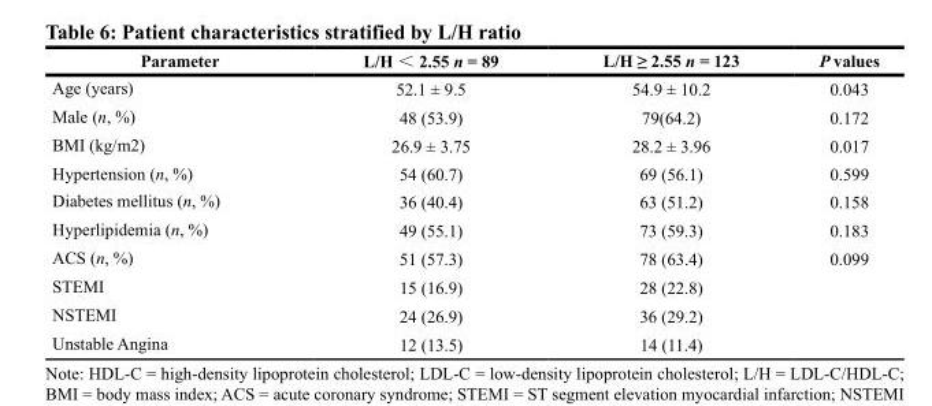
<table><thead><tr><td>Parameter</td><td>L/H ＜ 2.55 n = 89</td><td>L/H ≥ 2.55 n = 123</td><td>P values</td></tr></thead><tbody><tr><td>Age (years)</td><td>52.1 ± 9.5</td><td>54.9 ± 10.2</td><td>0.043</td></tr><tr><td>Male (n, %)</td><td>48 (53.9)</td><td>79(64.2)</td><td>0.172</td></tr><tr><td>BMI (kg/m2)</td><td>26.9 ± 3.75</td><td>28.2 ± 3.96</td><td>0.017</td></tr><tr><td>Hypertension (n, %)</td><td>54 (60.7)</td><td>69 (56.1)</td><td>0.599</td></tr><tr><td>Diabetes mellitus (n, %)</td><td>36 (40.4)</td><td>63 (51.2)</td><td>0.158</td></tr><tr><td>Hyperlipidemia (n, %)</td><td>49 (55.1)</td><td>73 (59.3)</td><td>0.183</td></tr><tr><td>ACS (n, %)</td><td>51 (57.3)</td><td>78 (63.4)</td><td>0.099</td></tr><tr><td>STEMI</td><td>15 (16.9)</td><td>28 (22.8)</td><td></td></tr><tr><td>NSTEMI</td><td>24 (26.9)</td><td>36 (29.2)</td><td></td></tr><tr><td>Unstable Angina</td><td>12 (13.5)</td><td>14 (11.4)</td><td></td></tr></tbody></table>